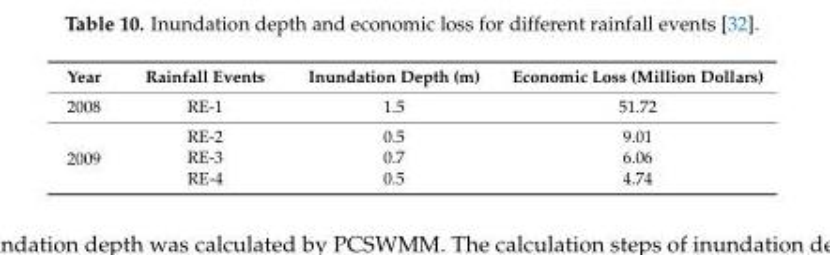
<table><thead><tr><td>Year</td><td>Rainfall Events</td><td>Inundation Depth (m)</td><td>Economic Loss (Million Dollars)</td></tr></thead><tbody><tr><td>2008</td><td>RE-1</td><td>1.5</td><td>51.72</td></tr><tr><td rowspan="3">2009</td><td>RE-2</td><td>0.5</td><td>9.01</td></tr><tr><td>RE-3</td><td>0.7</td><td>6.06</td></tr><tr><td>RE-4</td><td>0.5</td><td>4.74</td></tr></tbody></table>